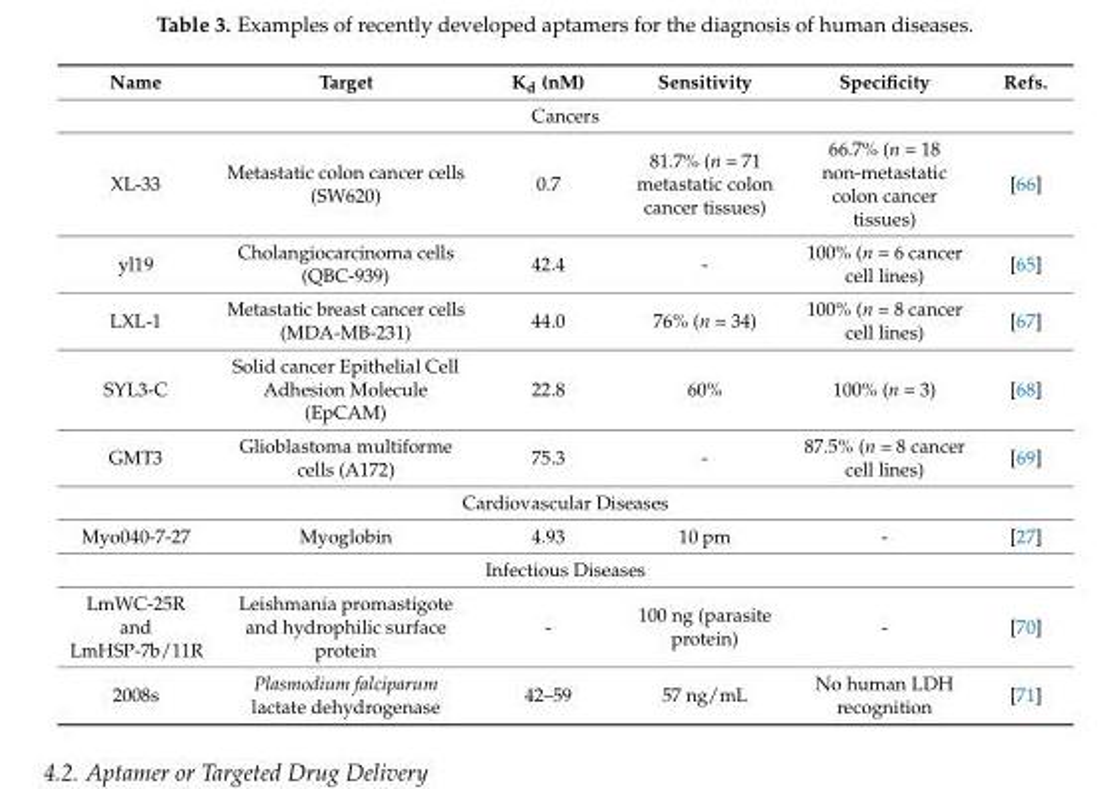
<table><thead><tr><td>Name</td><td>Target</td><td>K<sub>d</sub> (nM)</td><td>Sensitivity</td><td>Specificity</td><td>Refs.</td></tr></thead><tbody><tr><td colspan="6">Cancers</td></tr><tr><td>XL-33</td><td>Metastatic colon cancer cells (SW620)</td><td>0.7</td><td>81.7% (n = 71 metastatic colon cancer tissues)</td><td>66.7% (n = 18 non-metastatic colon cancer tissues)</td><td>[66]</td></tr><tr><td>yl19</td><td>Cholangiocarcinoma cells (QBC-939)</td><td>42.4</td><td>-</td><td>100% (n = 6 cancer cell lines)</td><td>[65]</td></tr><tr><td>LXL-1</td><td>Metastatic breast cancer cells (MDA-MB-231)</td><td>44.0</td><td>76% (n = 34)</td><td>100% (n = 8 cancer cell lines)</td><td>[67]</td></tr><tr><td>SYL3-C</td><td>Solid cancer Epithelial Cell Adhesion Molecule (EpCAM)</td><td>22.8</td><td>60%</td><td>100% (n = 3)</td><td>[68]</td></tr><tr><td>GMT3</td><td>Glioblastoma multiforme cells (A172)</td><td>75.3</td><td>-</td><td>87.5% (n = 8 cancer cell lines)</td><td>[69]</td></tr><tr><td colspan="6">Cardiovascular Diseases</td></tr><tr><td>Myo040-7-27</td><td>Myoglobin</td><td>4.93</td><td>10 pm</td><td>-</td><td>[27]</td></tr><tr><td colspan="6">Infectious Diseases</td></tr><tr><td>LmWC-25R and LmHSP-7b/11R</td><td>Leishmania promastigote and hydrophilic surface protein</td><td>-</td><td>100 ng (parasite protein)</td><td>-</td><td>[70]</td></tr><tr><td>2008s</td><td>Plasmodium falciparum lactate dehydrogenase</td><td>42–59</td><td>57 ng/mL</td><td>No human LDH recognition</td><td>[71]</td></tr></tbody></table>